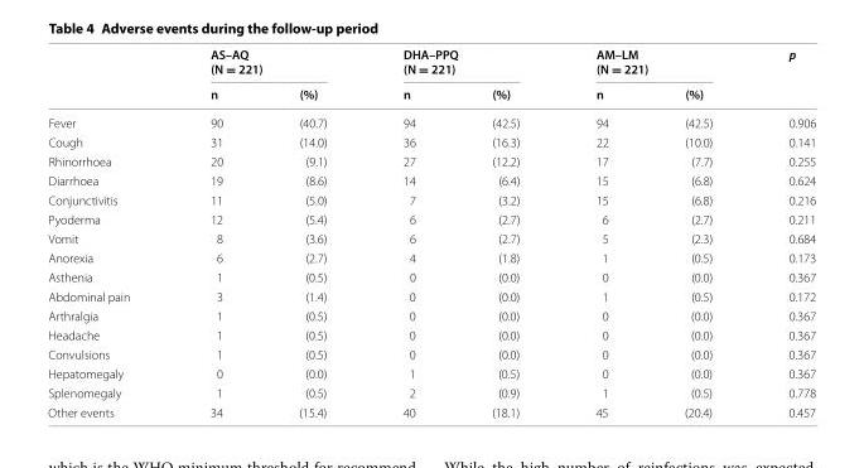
<table><thead><tr><td rowspan="2"></td><td colspan="2">AS–AQ (N = 221)</td><td colspan="2">DHA–PPQ (N = 221)</td><td colspan="2">AM–LM (N = 221)</td><td rowspan="2">p</td></tr><tr><td>n</td><td>(%)</td><td>n</td><td>(%)</td><td>n</td><td>(%)</td></tr></thead><tbody><tr><td>Fever</td><td>90</td><td>(40.7)</td><td>94</td><td>(42.5)</td><td>94</td><td>(42.5)</td><td>0.906</td></tr><tr><td>Cough</td><td>31</td><td>(14.0)</td><td>36</td><td>(16.3)</td><td>22</td><td>(10.0)</td><td>0.141</td></tr><tr><td>Rhinorrhoea</td><td>20</td><td>(9.1)</td><td>27</td><td>(12.2)</td><td>17</td><td>(7.7)</td><td>0.255</td></tr><tr><td>Diarrhoea</td><td>19</td><td>(8.6)</td><td>14</td><td>(6.4)</td><td>15</td><td>(6.8)</td><td>0.624</td></tr><tr><td>Conjunctivitis</td><td>11</td><td>(5.0)</td><td>7</td><td>(3.2)</td><td>15</td><td>(6.8)</td><td>0.216</td></tr><tr><td>Pyoderma</td><td>12</td><td>(5.4)</td><td>6</td><td>(2.7)</td><td>6</td><td>(2.7)</td><td>0.211</td></tr><tr><td>Vomit</td><td>8</td><td>(3.6)</td><td>6</td><td>(2.7)</td><td>5</td><td>(2.3)</td><td>0.684</td></tr><tr><td>Anorexia</td><td>6</td><td>(2.7)</td><td>4</td><td>(1.8)</td><td>1</td><td>(0.5)</td><td>0.173</td></tr><tr><td>Asthenia</td><td>1</td><td>(0.5)</td><td>0</td><td>(0.0)</td><td>0</td><td>(0.0)</td><td>0.367</td></tr><tr><td>Abdominal pain</td><td>3</td><td>(1.4)</td><td>0</td><td>(0.0)</td><td>1</td><td>(0.5)</td><td>0.172</td></tr><tr><td>Arthralgia</td><td>1</td><td>(0.5)</td><td>0</td><td>(0.0)</td><td>0</td><td>(0.0)</td><td>0.367</td></tr><tr><td>Headache</td><td>1</td><td>(0.5)</td><td>0</td><td>(0.0)</td><td>0</td><td>(0.0)</td><td>0.367</td></tr><tr><td>Convulsions</td><td>1</td><td>(0.5)</td><td>0</td><td>(0.0)</td><td>0</td><td>(0.0)</td><td>0.367</td></tr><tr><td>Hepatomegaly</td><td>0</td><td>(0.0)</td><td>1</td><td>(0.5)</td><td>0</td><td>(0.0)</td><td>0.367</td></tr><tr><td>Splenomegaly</td><td>1</td><td>(0.5)</td><td>2</td><td>(0.9)</td><td>1</td><td>(0.5)</td><td>0.778</td></tr><tr><td>Other events</td><td>34</td><td>(15.4)</td><td>40</td><td>(18.1)</td><td>45</td><td>(20.4)</td><td>0.457</td></tr></tbody></table>